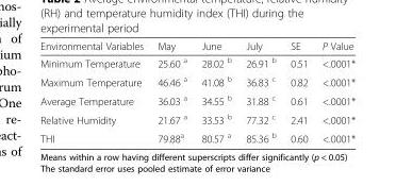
<table><thead><tr><td>Environmental Variables</td><td>May</td><td>June</td><td>July</td><td>SE</td><td>P Value</td></tr></thead><tbody><tr><td>Minimum Temperature</td><td>25.60 <sup>a</sup></td><td>28.02 <sup>b</sup></td><td>26.91 <sup>b</sup></td><td>0.51</td><td>&lt;.0001*</td></tr><tr><td>Maximum Temperature</td><td>46.46 <sup>a</sup></td><td>41.08 <sup>b</sup></td><td>36.83 <sup>c</sup></td><td>0.82</td><td>&lt;.0001*</td></tr><tr><td>Average Temperature</td><td>36.03 <sup>a</sup></td><td>34.55 <sup>b</sup></td><td>31.88 <sup>c</sup></td><td>0.61</td><td>&lt;.0001*</td></tr><tr><td>Relative Humidity</td><td>21.67 <sup>a</sup></td><td>33.53 <sup>b</sup></td><td>77.32 <sup>c</sup></td><td>2.41</td><td>&lt;.0001*</td></tr><tr><td>THI</td><td>79.88<sup>a</sup></td><td>80.57 <sup>a</sup></td><td>85.36 <sup>b</sup></td><td>0.60</td><td>&lt;.0001*</td></tr></tbody></table>